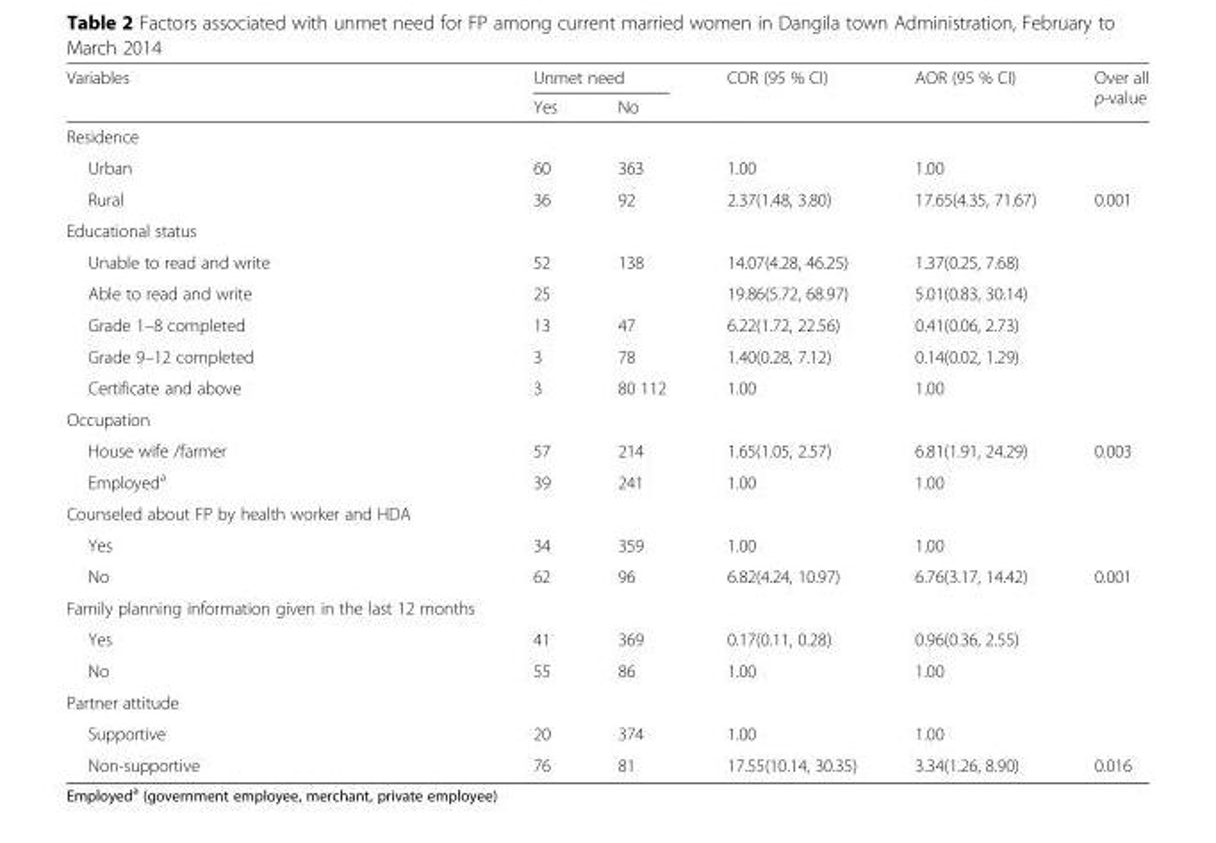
<table><thead><tr><td rowspan="2">Variables</td><td colspan="2">Unmet need</td><td rowspan="2">COR (95 % CI)</td><td rowspan="2">AOR (95 % CI)</td><td rowspan="2">Over all p-value</td></tr><tr><td>Yes</td><td>No</td></tr></thead><tbody><tr><td colspan="6">Residence</td></tr><tr><td>Urban</td><td>60</td><td>363</td><td>1.00</td><td>1.00</td><td></td></tr><tr><td>Rural</td><td>36</td><td>92</td><td>2.37(1.48, 3.80)</td><td>17.65(4.35, 71.67)</td><td>0.001</td></tr><tr><td colspan="5">Educational status</td><td rowspan="6"></td></tr><tr><td>Unable to read and write</td><td>52</td><td>138</td><td>14.07(4.28, 46.25)</td><td>1.37(0.25, 7.68)</td></tr><tr><td>Able to read and write</td><td>25</td><td></td><td>19.86(5.72, 68.97)</td><td>5.01(0.83, 30.14)</td></tr><tr><td>Grade 1–8 completed</td><td>13</td><td>47</td><td>6.22(1.72, 22.56)</td><td>0.41(0.06, 2.73)</td></tr><tr><td>Grade 9–12 completed</td><td>3</td><td>78</td><td>1.40(0.28, 7.12)</td><td>0.14(0.02, 1.29)</td></tr><tr><td>Certificate and above</td><td>3</td><td>80 112</td><td>1.00</td><td>1.00</td></tr><tr><td colspan="6">Occupation</td></tr><tr><td>House wife /farmer</td><td>57</td><td>214</td><td>1.65(1.05, 2.57)</td><td>6.81(1.91, 24.29)</td><td>0.003</td></tr><tr><td>Employed<sup>a</sup></td><td>39</td><td>241</td><td>1.00</td><td>1.00</td><td></td></tr><tr><td colspan="6">Counseled about FP by health worker and HDA</td></tr><tr><td>Yes</td><td>34</td><td>359</td><td>1.00</td><td>1.00</td><td></td></tr><tr><td>No</td><td>62</td><td>96</td><td>6.82(4.24, 10.97)</td><td>6.76(3.17, 14.42)</td><td>0.001</td></tr><tr><td colspan="6">Family planning information given in the last 12 months</td></tr><tr><td>Yes</td><td>41</td><td>369</td><td>0.17(0.11, 0.28)</td><td>0.96(0.36, 2.55)</td><td></td></tr><tr><td>No</td><td>55</td><td>86</td><td>1.00</td><td>1.00</td><td></td></tr><tr><td colspan="6">Partner attitude</td></tr><tr><td>Supportive</td><td>20</td><td>374</td><td>1.00</td><td>1.00</td><td></td></tr><tr><td>Non-supportive</td><td>76</td><td>81</td><td>17.55(10.14, 30.35)</td><td>3.34(1.26, 8.90)</td><td>0.016</td></tr></tbody></table>